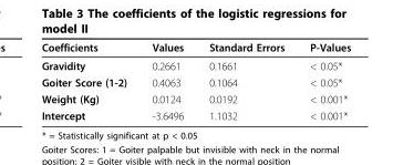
<table><thead><tr><td>Coefficients</td><td>Values</td><td>Standard Errors</td><td>P-Values</td></tr></thead><tbody><tr><td>Gravidity</td><td>0.2661</td><td>0.1661</td><td>&lt; 0.05*</td></tr><tr><td>Goiter Score (1-2)</td><td>0.4063</td><td>0.1064</td><td>&lt; 0.05*</td></tr><tr><td>Weight (Kg)</td><td>0.0124</td><td>0.0192</td><td>&lt; 0.001*</td></tr><tr><td>Intercept</td><td>-3.6496</td><td>1.1032</td><td>&lt; 0.001*</td></tr></tbody></table>